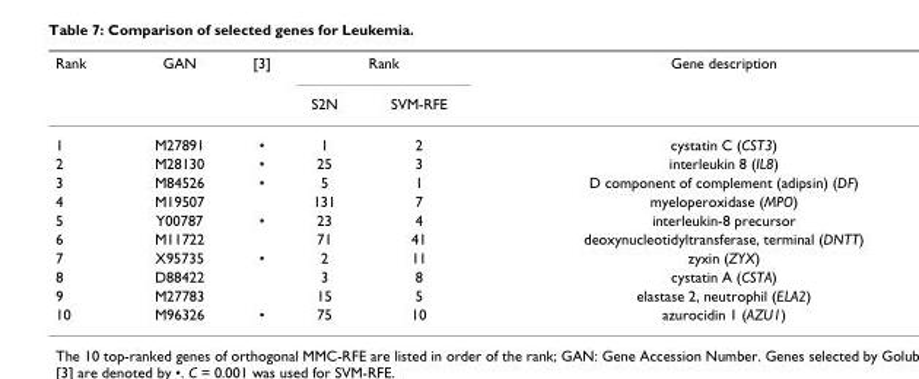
<table><thead><tr><td rowspan="2">Rank</td><td rowspan="2">GAN</td><td rowspan="2">[3]</td><td colspan="2">Rank</td><td rowspan="2">Gene description</td></tr><tr><td>S2N</td><td>SVM-RFE</td></tr></thead><tbody><tr><td>1</td><td>M27891</td><td>•</td><td>1</td><td>2</td><td>cystatin C (CST3)</td></tr><tr><td>2</td><td>M28130</td><td>•</td><td>25</td><td>3</td><td>interleukin 8 (IL8)</td></tr><tr><td>3</td><td>M84526</td><td>•</td><td>5</td><td>1</td><td>D component of complement (adipsin) (DF)</td></tr><tr><td>4</td><td>M19507</td><td></td><td>131</td><td>7</td><td>myeloperoxidase (MPO)</td></tr><tr><td>5</td><td>Y00787</td><td>•</td><td>23</td><td>4</td><td>interleukin-8 precursor</td></tr><tr><td>6</td><td>M11722</td><td></td><td>71</td><td>41</td><td>deoxynucleotidyltransferase, terminal (DNTT)</td></tr><tr><td>7</td><td>X95735</td><td>•</td><td>2</td><td>11</td><td>zyxin (ZYX)</td></tr><tr><td>8</td><td>D88422</td><td></td><td>3</td><td>8</td><td>cystatin A (CSTA)</td></tr><tr><td>9</td><td>M27783</td><td></td><td>15</td><td>5</td><td>elastase 2, neutrophil (ELA2)</td></tr><tr><td>10</td><td>M96326</td><td>•</td><td>75</td><td>10</td><td>azurocidin 1 (AZU1)</td></tr></tbody></table>